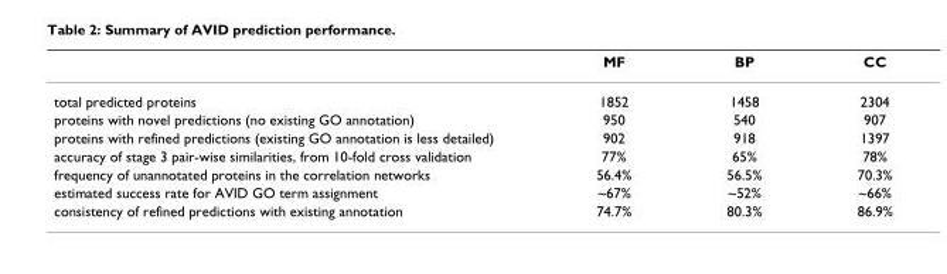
<table><thead><tr><td></td><td>MF</td><td>BP</td><td>CC</td></tr></thead><tbody><tr><td>total predicted proteins</td><td>1852</td><td>1458</td><td>2304</td></tr><tr><td>proteins with novel predictions (no existing GO annotation)</td><td>950</td><td>540</td><td>907</td></tr><tr><td>proteins with refined predictions (existing GO annotation is less detailed)</td><td>902</td><td>918</td><td>1397</td></tr><tr><td>accuracy of stage 3 pair-wise similarities, from 10-fold cross validation</td><td>77%</td><td>65%</td><td>78%</td></tr><tr><td>frequency of unannotated proteins in the correlation networks</td><td>56.4%</td><td>56.5%</td><td>70.3%</td></tr><tr><td>estimated success rate for AVID GO term assignment</td><td>~67%</td><td>~52%</td><td>~66%</td></tr><tr><td>consistency of refined predictions with existing annotation</td><td>74.7%</td><td>80.3%</td><td>86.9%</td></tr></tbody></table>